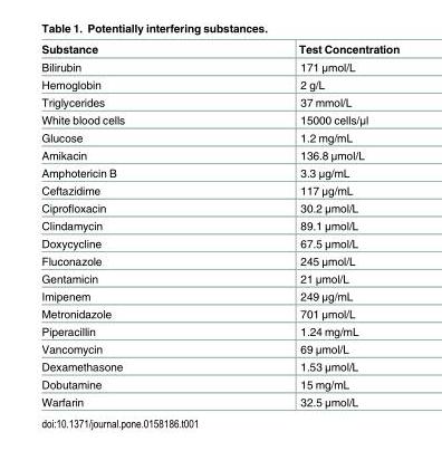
<table><thead><tr><td>Substance</td><td>Test Concentration</td></tr></thead><tbody><tr><td>Bilirubin</td><td>171 μmol/L</td></tr><tr><td>Hemoglobin</td><td>2 g/L</td></tr><tr><td>Triglycerides</td><td>37 mmol/L</td></tr><tr><td>White blood cells</td><td>15000 cells/μl</td></tr><tr><td>Glucose</td><td>1.2 mg/mL</td></tr><tr><td>Amikacin</td><td>136.8 μmol/L</td></tr><tr><td>Amphotericin B</td><td>3.3 μg/mL</td></tr><tr><td>Ceftazidime</td><td>117 μg/mL</td></tr><tr><td>Ciprofloxacin</td><td>30.2 μmol/L</td></tr><tr><td>Clindamycin</td><td>89.1 μmol/L</td></tr><tr><td>Doxycycline</td><td>67.5 μmol/L</td></tr><tr><td>Fluconazole</td><td>245 μmol/L</td></tr><tr><td>Gentamicin</td><td>21 μmol/L</td></tr><tr><td>Imipenem</td><td>249 μg/mL</td></tr><tr><td>Metronidazole</td><td>701 μmol/L</td></tr><tr><td>Piperacillin</td><td>1.24 mg/mL</td></tr><tr><td>Vancomycin</td><td>69 μmol/L</td></tr><tr><td>Dexamethasone</td><td>1.53 μmol/L</td></tr><tr><td>Dobutamine</td><td>15 mg/mL</td></tr><tr><td>Warfarin</td><td>32.5 μmol/L</td></tr></tbody></table>